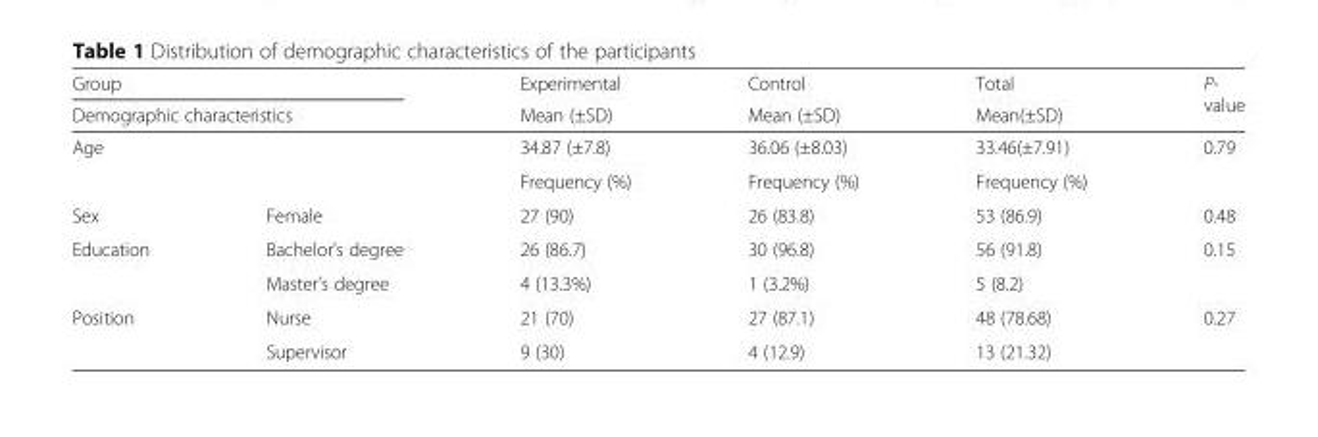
<table><thead><tr><td rowspan="4" colspan="2">Group Demographic characteristics Age</td><td rowspan="5">Experimental Mean (±SD) 34.87 (±7.8) Frequency (%) 27 (90)</td><td rowspan="5">Control Mean (±SD) 36.06 (±8.03) Frequency (%) 26 (83.8)</td><td rowspan="5">Total Mean(±SD) 33.46(±7.91) Frequency (%) 53 (86.9)</td><td rowspan="5">P- value 0.79 0.48</td></tr><tr></tr><tr></tr><tr></tr><tr><td>Sex</td><td>Female</td></tr></thead><tbody><tr><td rowspan="2">Education</td><td>Bachelor’s degree</td><td>26 (86.7)</td><td>30 (96.8)</td><td>56 (91.8)</td><td rowspan="2">0.15</td></tr><tr><td>Master’s degree</td><td>4 (13.3%)</td><td>1 (3.2%)</td><td>5 (8.2)</td></tr><tr><td rowspan="2">Position</td><td>Nurse</td><td>21 (70)</td><td>27 (87.1)</td><td>48 (78.68)</td><td rowspan="2">0.27</td></tr><tr><td>Supervisor</td><td>9 (30)</td><td>4 (12.9)</td><td>13 (21.32)</td></tr></tbody></table>